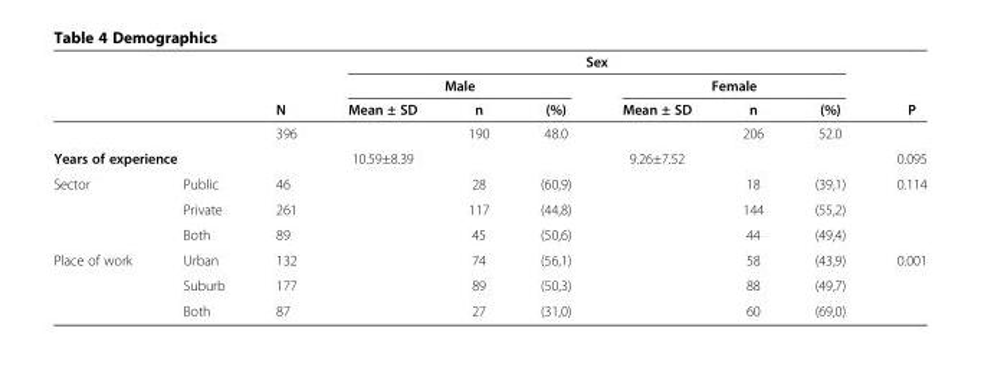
<table><thead><tr><td rowspan="3"></td><td rowspan="3"></td><td rowspan="3">N</td><td colspan="6">Sex</td><td rowspan="3">P</td></tr><tr><td colspan="3">Male</td><td colspan="3">Female</td></tr><tr><td>Mean ± SD</td><td>n</td><td>(%)</td><td>Mean ± SD</td><td>n</td><td>(%)</td></tr></thead><tbody><tr><td></td><td></td><td>396</td><td></td><td>190</td><td>48.0</td><td></td><td>206</td><td>52.0</td><td></td></tr><tr><td>Years of experience</td><td></td><td></td><td>10.59±8.39</td><td></td><td></td><td>9.26±7.52</td><td></td><td></td><td>0.095</td></tr><tr><td rowspan="3">Sector</td><td>Public</td><td>46</td><td></td><td>28</td><td>(60,9)</td><td></td><td>18</td><td>(39,1)</td><td>0.114</td></tr><tr><td>Private</td><td>261</td><td></td><td>117</td><td>(44,8)</td><td></td><td>144</td><td>(55,2)</td><td></td></tr><tr><td>Both</td><td>89</td><td></td><td>45</td><td>(50,6)</td><td></td><td>44</td><td>(49,4)</td><td></td></tr><tr><td rowspan="3">Place of work</td><td>Urban</td><td>132</td><td></td><td>74</td><td>(56,1)</td><td></td><td>58</td><td>(43,9)</td><td>0.001</td></tr><tr><td>Suburb</td><td>177</td><td></td><td>89</td><td>(50,3)</td><td></td><td>88</td><td>(49,7)</td><td></td></tr><tr><td>Both</td><td>87</td><td></td><td>27</td><td>(31,0)</td><td></td><td>60</td><td>(69,0)</td><td></td></tr></tbody></table>